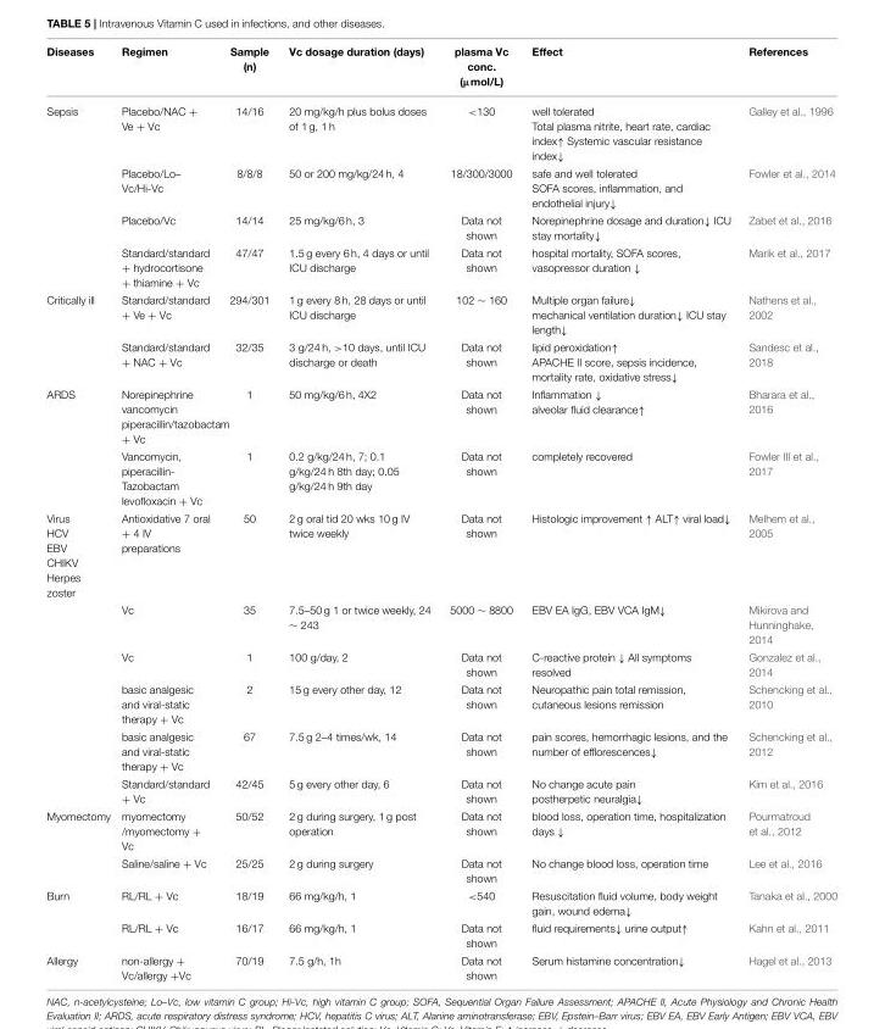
<table><thead><tr><td>Diseases</td><td>Regimen</td><td>Sample (n)</td><td>Vc dosage duration (days)</td><td>plasma Vc conc. (µmol/L)</td><td>Effect</td><td>References</td></tr></thead><tbody><tr><td rowspan="4">Sepsis</td><td>Placebo/NAC + Ve + Vc</td><td>14/16</td><td>20 mg/kg/h plus bolus doses of 1 g, 1 h</td><td>&lt;130</td><td>well tolerated Total plasma nitrite, heart rate, cardiac index↑ Systemic vascular resistance index↓</td><td>Galley et al., 1996</td></tr><tr><td>Placebo/Lo– Vc/Hi-Vc</td><td>8/8/8</td><td>50 or 200 mg/kg/24 h, 4</td><td>18/300/3000</td><td>safe and well tolerated SOFA scores, inflammation, and endothelial injury↓</td><td>Fowler et al., 2014</td></tr><tr><td>Placebo/Vc</td><td>14/14</td><td>25 mg/kg/6 h, 3</td><td>Data not shown</td><td>Norepinephrine dosage and duration↓ ICU stay mortality↓</td><td>Zabet et al., 2016</td></tr><tr><td>Standard/standard + hydrocortisone + thiamine + Vc</td><td>47/47</td><td>1.5 g every 6 h, 4 days or until ICU discharge</td><td>Data not shown</td><td>hospital mortality, SOFA scores, vasopressor duration ↓</td><td>Marik et al., 2017</td></tr><tr><td rowspan="2">Critically ill</td><td>Standard/standard + Ve + Vc</td><td>294/301</td><td>1 g every 8 h, 28 days or until ICU discharge</td><td>102 ∼ 160</td><td>Multiple organ failure↓ mechanical ventilation duration↓ ICU stay length↓</td><td>Nathens et al., 2002</td></tr><tr><td>Standard/standard + NAC + Vc</td><td>32/35</td><td>3 g/24 h, &gt;10 days, until ICU discharge or death</td><td>Data not shown</td><td>lipid peroxidation↑ APACHE II score, sepsis incidence, mortality rate, oxidative stress↓</td><td>Sandesc et al., 2018</td></tr><tr><td rowspan="2">ARDS</td><td>Norepinephrine vancomycin piperacillin/tazobactam + Vc</td><td>1</td><td>50 mg/kg/6 h, 4X2</td><td>Data not shown</td><td>Inflammation ↓ alveolar fluid clearance↑</td><td>Bharara et al., 2016</td></tr><tr><td>Vancomycin, piperacillin- Tazobactam levofloxacin + Vc</td><td>1</td><td>0.2 g/kg/24 h, 7; 0.1 g/kg/24 h 8th day; 0.05 g/kg/24 h 9th day</td><td>Data not shown</td><td>completely recovered</td><td>Fowler III et al., 2017</td></tr><tr><td rowspan="6">Virus HCV EBV CHIKV Herpes zoster</td><td>Antioxidative 7 oral + 4 IV preparations</td><td>50</td><td>2 g oral tid 20 wks 10 g IV twice weekly</td><td>Data not shown</td><td>Histologic improvement ↑ ALT↑ viral load↓</td><td>Melhem et al., 2005</td></tr><tr><td>Vc</td><td>35</td><td>7.5–50 g 1 or twice weekly, 24 ∼ 243</td><td>5000 ∼ 8800</td><td>EBV EA IgG, EBV VCA IgM↓</td><td>Mikirova and Hunninghake, 2014</td></tr><tr><td>Vc</td><td>1</td><td>100 g/day, 2</td><td>Data not shown</td><td>C-reactive protein ↓ All symptoms resolved</td><td>Gonzalez et al., 2014</td></tr><tr><td>basic analgesic and viral-static therapy + Vc</td><td>2</td><td>15 g every other day, 12</td><td>Data not shown</td><td>Neuropathic pain total remission, cutaneous lesions remission</td><td>Schencking et al., 2010</td></tr><tr><td>basic analgesic and viral-static therapy + Vc</td><td>67</td><td>7.5 g 2–4 times/wk, 14</td><td>Data not shown</td><td>pain scores, hemorrhagic lesions, and the number of efflorescences↓</td><td>Schencking et al., 2012</td></tr><tr><td>Standard/standard + Vc</td><td>42/45</td><td>5 g every other day, 6</td><td>Data not shown</td><td>No change acute pain postherpetic neuralgia↓</td><td>Kim et al., 2016</td></tr><tr><td rowspan="2">Myomectomy</td><td>myomectomy /myomectomy + Vc</td><td>50/52</td><td>2 g during surgery, 1 g post operation</td><td>Data not shown</td><td>blood loss, operation time, hospitalization days ↓</td><td>Pourmatroud et al., 2012</td></tr><tr><td>Saline/saline + Vc</td><td>25/25</td><td>2 g during surgery</td><td>Data not shown</td><td>No change blood loss, operation time</td><td>Lee et al., 2016</td></tr><tr><td rowspan="2">Burn</td><td>RL/RL + Vc</td><td>18/19</td><td>66 mg/kg/h, 1</td><td>&lt;540</td><td>Resuscitation fluid volume, body weight gain, wound edema↓</td><td>Tanaka et al., 2000</td></tr><tr><td>RL/RL + Vc</td><td>16/17</td><td>66 mg/kg/h, 1</td><td>Data not shown</td><td>fluid requirements↓ urine output↑</td><td>Kahn et al., 2011</td></tr><tr><td>Allergy</td><td>non-allergy + Vc/allergy +Vc</td><td>70/19</td><td>7.5 g/h, 1h</td><td>Data not shown</td><td>Serum histamine concentration↓</td><td>Hagel et al., 2013</td></tr></tbody></table>